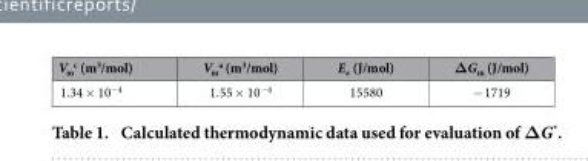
<table><thead><tr><td>V<sub>m</sub> <sup>c</sup> (m<sup>3</sup>/mol)</td><td>V<sub>m</sub> <sup>a</sup> (m<sup>3</sup>/mol)</td><td>E<sub>e</sub> (J/mol)</td><td>ΔG<sub>m</sub> (J/mol)</td></tr></thead><tbody><tr><td>1.34 × 10<sup>−4</sup></td><td>1.55 × 10<sup>−4</sup></td><td>15580</td><td>− 1719</td></tr></tbody></table>